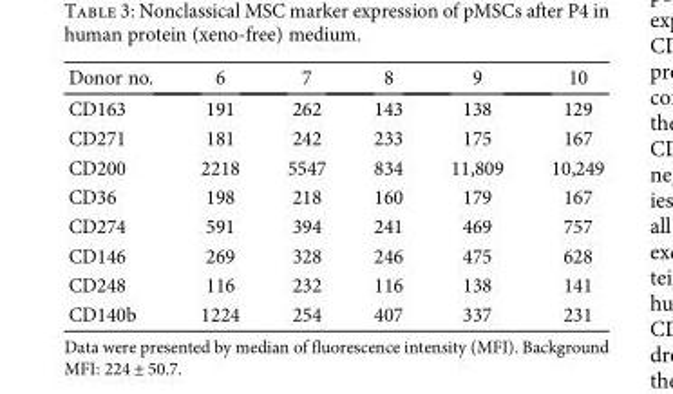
<table><thead><tr><td>Donor no.</td><td>6</td><td>7</td><td>8</td><td>9</td><td>10</td></tr></thead><tbody><tr><td>CD163</td><td>191</td><td>262</td><td>143</td><td>138</td><td>129</td></tr><tr><td>CD271</td><td>181</td><td>242</td><td>233</td><td>175</td><td>167</td></tr><tr><td>CD200</td><td>2218</td><td>5547</td><td>834</td><td>11,809</td><td>10,249</td></tr><tr><td>CD36</td><td>198</td><td>218</td><td>160</td><td>179</td><td>167</td></tr><tr><td>CD274</td><td>591</td><td>394</td><td>241</td><td>469</td><td>757</td></tr><tr><td>CD146</td><td>269</td><td>328</td><td>246</td><td>475</td><td>628</td></tr><tr><td>CD248</td><td>116</td><td>232</td><td>116</td><td>138</td><td>141</td></tr><tr><td>CD140b</td><td>1224</td><td>254</td><td>407</td><td>337</td><td>231</td></tr></tbody></table>